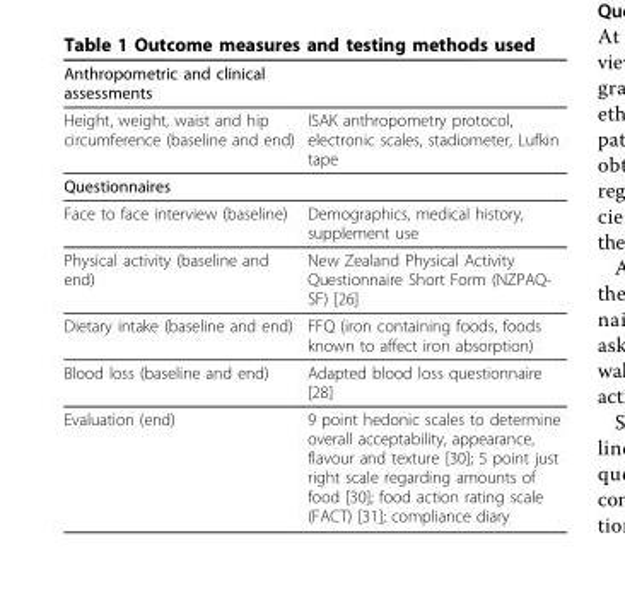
<table><thead><tr><td>Anthropometric and clinical assessments</td><td></td></tr></thead><tbody><tr><td>Height, weight, waist and hip circumference (baseline and end)</td><td>ISAK anthropometry protocol, electronic scales, stadiometer, Lufkin tape</td></tr><tr><td colspan="2">Questionnaires</td></tr><tr><td>Face to face interview (baseline)</td><td>Demographics, medical history, supplement use</td></tr><tr><td>Physical activity (baseline and end)</td><td>New Zealand Physical Activity Questionnaire Short Form (NZPAQ- SF) [26]</td></tr><tr><td>Dietary intake (baseline and end)</td><td>FFQ (iron containing foods, foods known to affect iron absorption)</td></tr><tr><td>Blood loss (baseline and end)</td><td>Adapted blood loss questionnaire [28]</td></tr><tr><td>Evaluation (end)</td><td>9 point hedonic scales to determine overall acceptability, appearance, flavour and texture [30]; 5 point just right scale regarding amounts of food [30]; food action rating scale (FACT) [31]; compliance diary</td></tr></tbody></table>